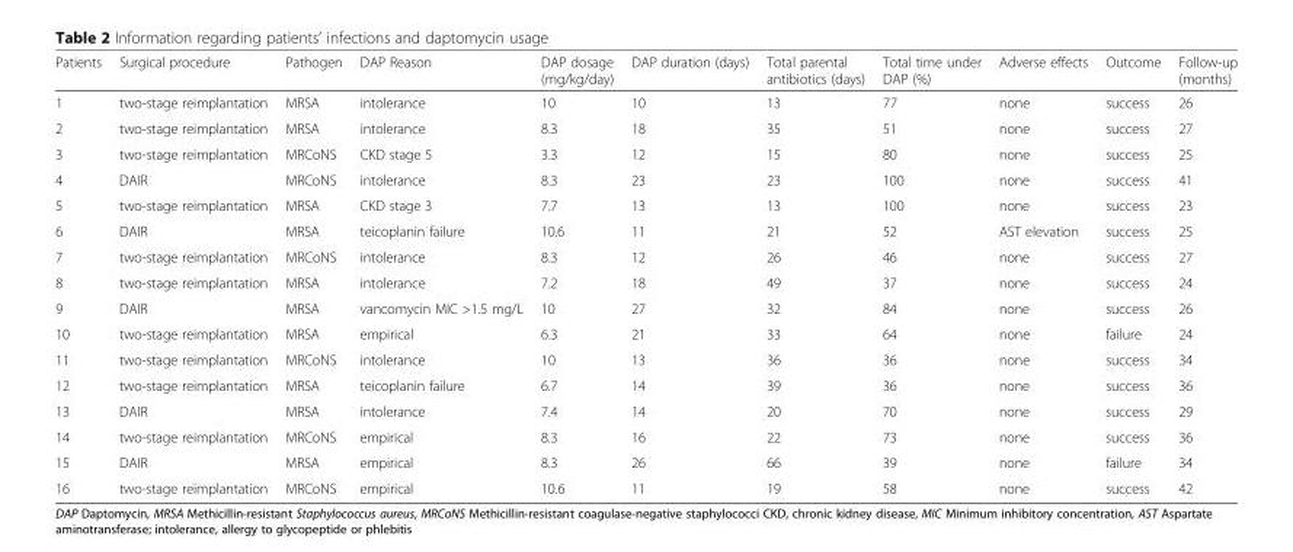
<table><thead><tr><td>Patients</td><td>Surgical procedure</td><td>Pathogen</td><td>DAP Reason</td><td>DAP dosage (mg/kg/day)</td><td>DAP duration (days)</td><td>Total parental antibiotics (days)</td><td>Total time under DAP (%)</td><td>Adverse effects</td><td>Outcome</td><td>Follow-up (months)</td></tr></thead><tbody><tr><td>1</td><td>two-stage reimplantation</td><td>MRSA</td><td>intolerance</td><td>10</td><td>10</td><td>13</td><td>77</td><td>none</td><td>success</td><td>26</td></tr><tr><td>2</td><td>two-stage reimplantation</td><td>MRSA</td><td>intolerance</td><td>8.3</td><td>18</td><td>35</td><td>51</td><td>none</td><td>success</td><td>27</td></tr><tr><td>3</td><td>two-stage reimplantation</td><td>MRCoNS</td><td>CKD stage 5</td><td>3.3</td><td>12</td><td>15</td><td>80</td><td>none</td><td>success</td><td>25</td></tr><tr><td>4</td><td>DAIR</td><td>MRCoNS</td><td>intolerance</td><td>8.3</td><td>23</td><td>23</td><td>100</td><td>none</td><td>success</td><td>41</td></tr><tr><td>5</td><td>two-stage reimplantation</td><td>MRSA</td><td>CKD stage 3</td><td>7.7</td><td>13</td><td>13</td><td>100</td><td>none</td><td>success</td><td>23</td></tr><tr><td>6</td><td>DAIR</td><td>MRSA</td><td>teicoplanin failure</td><td>10.6</td><td>11</td><td>21</td><td>52</td><td>AST elevation</td><td>success</td><td>25</td></tr><tr><td>7</td><td>two-stage reimplantation</td><td>MRCoNS</td><td>intolerance</td><td>8.3</td><td>12</td><td>26</td><td>46</td><td>none</td><td>success</td><td>27</td></tr><tr><td>8</td><td>two-stage reimplantation</td><td>MRSA</td><td>intolerance</td><td>7.2</td><td>18</td><td>49</td><td>37</td><td>none</td><td>success</td><td>24</td></tr><tr><td>9</td><td>DAIR</td><td>MRSA</td><td>vancomycin MIC &gt;1.5 mg/L</td><td>10</td><td>27</td><td>32</td><td>84</td><td>none</td><td>success</td><td>26</td></tr><tr><td>10</td><td>two-stage reimplantation</td><td>MRSA</td><td>empirical</td><td>6.3</td><td>21</td><td>33</td><td>64</td><td>none</td><td>failure</td><td>24</td></tr><tr><td>11</td><td>two-stage reimplantation</td><td>MRCoNS</td><td>intolerance</td><td>10</td><td>13</td><td>36</td><td>36</td><td>none</td><td>success</td><td>34</td></tr><tr><td>12</td><td>two-stage reimplantation</td><td>MRSA</td><td>teicoplanin failure</td><td>6.7</td><td>14</td><td>39</td><td>36</td><td>none</td><td>success</td><td>36</td></tr><tr><td>13</td><td>DAIR</td><td>MRSA</td><td>intolerance</td><td>7.4</td><td>14</td><td>20</td><td>70</td><td>none</td><td>success</td><td>29</td></tr><tr><td>14</td><td>two-stage reimplantation</td><td>MRCoNS</td><td>empirical</td><td>8.3</td><td>16</td><td>22</td><td>73</td><td>none</td><td>success</td><td>36</td></tr><tr><td>15</td><td>DAIR</td><td>MRSA</td><td>empirical</td><td>8.3</td><td>26</td><td>66</td><td>39</td><td>none</td><td>failure</td><td>34</td></tr><tr><td>16</td><td>two-stage reimplantation</td><td>MRCoNS</td><td>empirical</td><td>10.6</td><td>11</td><td>19</td><td>58</td><td>none</td><td>success</td><td>42</td></tr></tbody></table>